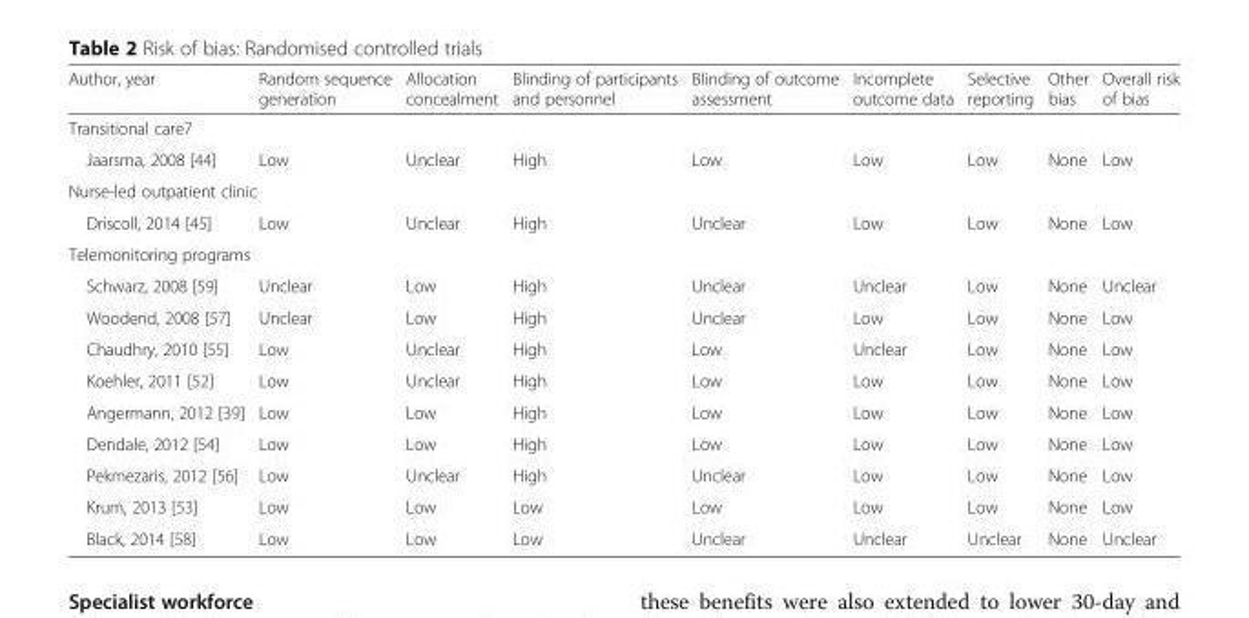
<table><thead><tr><td>Author, year</td><td>Random sequence generation</td><td>Allocation concealment</td><td>Blinding of participants and personnel</td><td>Blinding of outcome assessment</td><td>Incomplete outcome data</td><td>Selective reporting</td><td>Other bias</td><td>Overall risk of bias</td></tr></thead><tbody><tr><td colspan="9">Transitional care7</td></tr><tr><td>Jaarsma, 2008 [44]</td><td>Low</td><td>Unclear</td><td>High</td><td>Low</td><td>Low</td><td>Low</td><td>None</td><td>Low</td></tr><tr><td colspan="9">Nurse-led outpatient clinic</td></tr><tr><td>Driscoll, 2014 [45]</td><td>Low</td><td>Unclear</td><td>High</td><td>Unclear</td><td>Low</td><td>Low</td><td>None</td><td>Low</td></tr><tr><td colspan="9">Telemonitoring programs</td></tr><tr><td>Schwarz, 2008 [59]</td><td>Unclear</td><td>Low</td><td>High</td><td>Unclear</td><td>Unclear</td><td>Low</td><td>None</td><td>Unclear</td></tr><tr><td>Woodend, 2008 [57]</td><td>Unclear</td><td>Low</td><td>High</td><td>Unclear</td><td>Low</td><td>Low</td><td>None</td><td>Low</td></tr><tr><td>Chaudhry, 2010 [55]</td><td>Low</td><td>Unclear</td><td>High</td><td>Low</td><td>Unclear</td><td>Low</td><td>None</td><td>Low</td></tr><tr><td>Koehler, 2011 [52]</td><td>Low</td><td>Unclear</td><td>High</td><td>Low</td><td>Low</td><td>Low</td><td>None</td><td>Low</td></tr><tr><td>Angermann, 2012 [39]</td><td>Low</td><td>Low</td><td>High</td><td>Low</td><td>Low</td><td>Low</td><td>None</td><td>Low</td></tr><tr><td>Dendale, 2012 [54]</td><td>Low</td><td>Low</td><td>High</td><td>Low</td><td>Low</td><td>Low</td><td>None</td><td>Low</td></tr><tr><td>Pekmezaris, 2012 [56]</td><td>Low</td><td>Unclear</td><td>High</td><td>Unclear</td><td>Low</td><td>Low</td><td>None</td><td>Low</td></tr><tr><td>Krum, 2013 [53]</td><td>Low</td><td>Low</td><td>Low</td><td>Low</td><td>Low</td><td>Low</td><td>None</td><td>Low</td></tr><tr><td>Black, 2014 [58]</td><td>Low</td><td>Low</td><td>Low</td><td>Unclear</td><td>Unclear</td><td>Unclear</td><td>None</td><td>Unclear</td></tr></tbody></table>